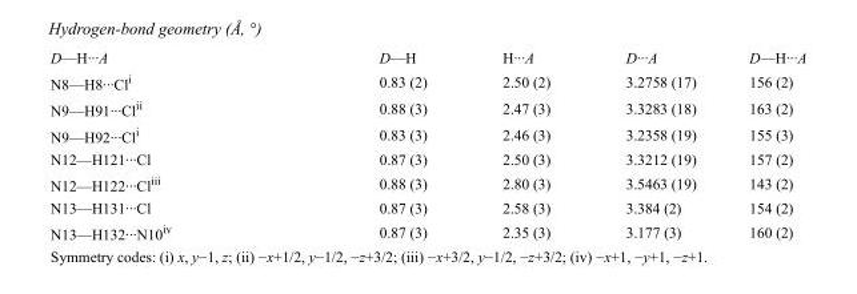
<table><tbody><tr><td>D—H···A</td><td>D—H</td><td>H···A</td><td>D···A</td><td>D—H···A</td></tr><tr><td>N8—H8···Cl<sup>i</sup></td><td>0.83 (2)</td><td>2.50 (2)</td><td>3.2758 (17)</td><td>156 (2)</td></tr><tr><td>N9—H91···Cl<sup>ii</sup></td><td>0.88 (3)</td><td>2.47 (3)</td><td>3.3283 (18)</td><td>163 (2)</td></tr><tr><td>N9—H92···Cl<sup>i</sup></td><td>0.83 (3)</td><td>2.46 (3)</td><td>3.2358 (19)</td><td>155 (3)</td></tr><tr><td>N12—H121···Cl</td><td>0.87 (3)</td><td>2.50 (3)</td><td>3.3212 (19)</td><td>157 (2)</td></tr><tr><td>N12—H122···Cl<sup>iii</sup></td><td>0.88 (3)</td><td>2.80 (3)</td><td>3.5463 (19)</td><td>143 (2)</td></tr><tr><td>N13—H131···Cl</td><td>0.87 (3)</td><td>2.58 (3)</td><td>3.384 (2)</td><td>154 (2)</td></tr><tr><td>N13—H132···N10<sup>iv</sup></td><td>0.87 (3)</td><td>2.35 (3)</td><td>3.177 (3)</td><td>160 (2)</td></tr></tbody></table>